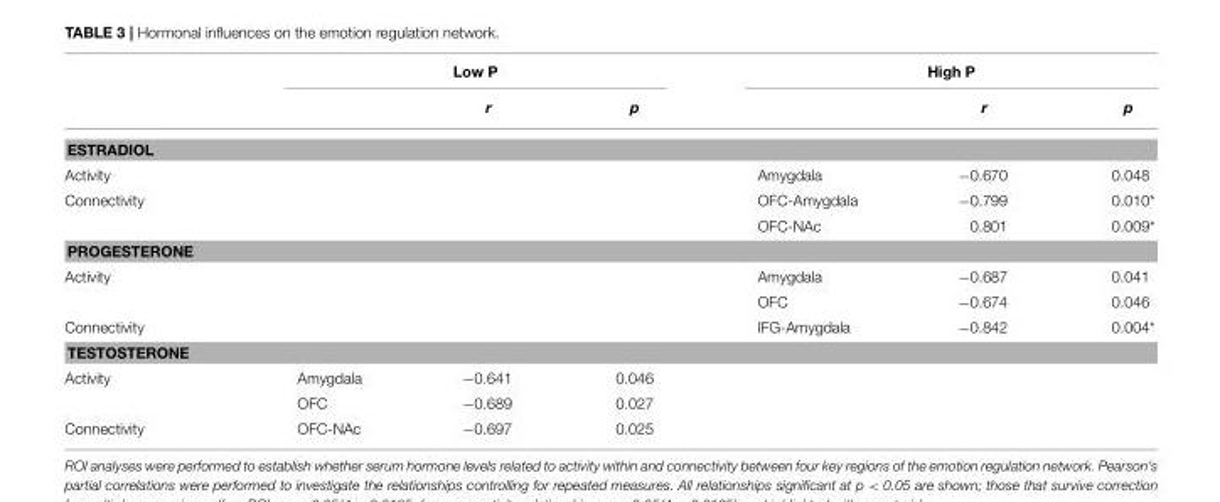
<table><thead><tr><td rowspan="2"></td><td colspan="3">Low P</td><td colspan="3">High P</td></tr><tr><td></td><td>r</td><td>p</td><td></td><td>r</td><td>p</td></tr></thead><tbody><tr><td colspan="7">ESTRADIOL</td></tr><tr><td>Activity</td><td></td><td></td><td></td><td>Amygdala</td><td>−0.670</td><td>0.048</td></tr><tr><td rowspan="2">Connectivity</td><td></td><td></td><td></td><td>OFC-Amygdala</td><td>−0.799</td><td>0.010*</td></tr><tr><td></td><td></td><td></td><td>OFC-NAc</td><td>0.801</td><td>0.009*</td></tr><tr><td colspan="7">PROGESTERONE</td></tr><tr><td rowspan="2">Activity</td><td></td><td></td><td></td><td>Amygdala</td><td>−0.687</td><td>0.041</td></tr><tr><td></td><td></td><td></td><td>OFC</td><td>−0.674</td><td>0.046</td></tr><tr><td>Connectivity</td><td></td><td></td><td></td><td>IFG-Amygdala</td><td>−0.842</td><td>0.004*</td></tr><tr><td colspan="7">TESTOSTERONE</td></tr><tr><td rowspan="2">Activity</td><td>Amygdala</td><td>−0.641</td><td>0.046</td><td></td><td></td><td></td></tr><tr><td>OFC</td><td>−0.689</td><td>0.027</td><td></td><td></td><td></td></tr><tr><td>Connectivity</td><td>OFC-NAc</td><td>−0.697</td><td>0.025</td><td></td><td></td><td></td></tr></tbody></table>